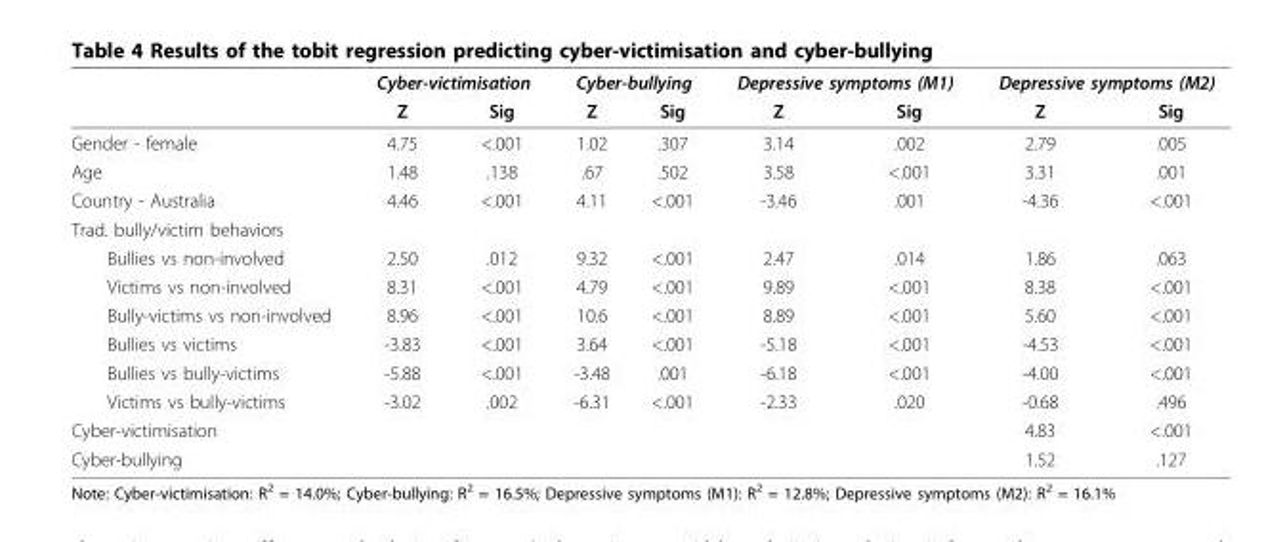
<table><thead><tr><td rowspan="2"></td><td colspan="2">Cyber-victimisation</td><td colspan="2">Cyber-bullying</td><td colspan="2">Depressive symptoms (M1)</td><td colspan="2">Depressive symptoms (M2)</td></tr><tr><td>Z</td><td>Sig</td><td>Z</td><td>Sig</td><td>Z</td><td>Sig</td><td>Z</td><td>Sig</td></tr></thead><tbody><tr><td>Gender - female</td><td>4.75</td><td>&lt;.001</td><td>1.02</td><td>.307</td><td>3.14</td><td>.002</td><td>2.79</td><td>.005</td></tr><tr><td>Age</td><td>1.48</td><td>.138</td><td>.67</td><td>.502</td><td>3.58</td><td>&lt;.001</td><td>3.31</td><td>.001</td></tr><tr><td>Country - Australia</td><td>4.46</td><td>&lt;.001</td><td>4.11</td><td>&lt;.001</td><td>-3.46</td><td>.001</td><td>-4.36</td><td>&lt;.001</td></tr><tr><td colspan="9">Trad. bully/victim behaviors</td></tr><tr><td>Bullies vs non-involved</td><td>2.50</td><td>.012</td><td>9.32</td><td>&lt;.001</td><td>2.47</td><td>.014</td><td>1.86</td><td>.063</td></tr><tr><td>Victims vs non-involved</td><td>8.31</td><td>&lt;.001</td><td>4.79</td><td>&lt;.001</td><td>9.89</td><td>&lt;.001</td><td>8.38</td><td>&lt;.001</td></tr><tr><td>Bully-victims vs non-involved</td><td>8.96</td><td>&lt;.001</td><td>10.6</td><td>&lt;.001</td><td>8.89</td><td>&lt;.001</td><td>5.60</td><td>&lt;.001</td></tr><tr><td>Bullies vs victims</td><td>-3.83</td><td>&lt;.001</td><td>3.64</td><td>&lt;.001</td><td>-5.18</td><td>&lt;.001</td><td>-4.53</td><td>&lt;.001</td></tr><tr><td>Bullies vs bully-victims</td><td>-5.88</td><td>&lt;.001</td><td>-3.48</td><td>.001</td><td>-6.18</td><td>&lt;.001</td><td>-4.00</td><td>&lt;.001</td></tr><tr><td>Victims vs bully-victims</td><td>-3.02</td><td>.002</td><td>-6.31</td><td>&lt;.001</td><td>-2.33</td><td>.020</td><td>-0.68</td><td>.496</td></tr><tr><td>Cyber-victimisation</td><td></td><td></td><td></td><td></td><td></td><td></td><td>4.83</td><td>&lt;.001</td></tr><tr><td>Cyber-bullying</td><td></td><td></td><td></td><td></td><td></td><td></td><td>1.52</td><td>.127</td></tr></tbody></table>